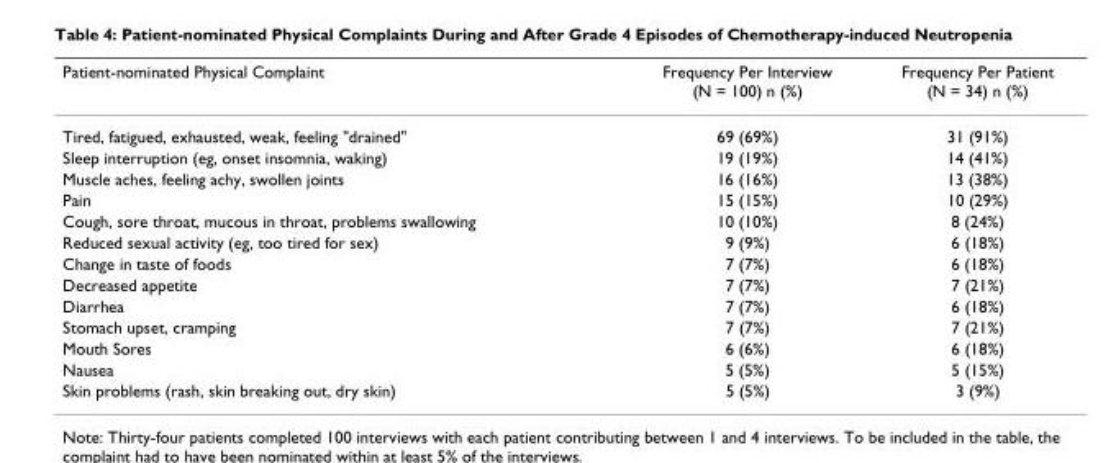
<table><thead><tr><td>Patient-nominated Physical Complaint</td><td>Frequency Per Interview (N = 100) n (%)</td><td>Frequency Per Patient (N = 34) n (%)</td></tr></thead><tbody><tr><td>Tired, fatigued, exhausted, weak, feeling &quot;drained&quot;</td><td>69 (69%)</td><td>31 (91%)</td></tr><tr><td>Sleep interruption (eg, onset insomnia, waking)</td><td>19 (19%)</td><td>14 (41%)</td></tr><tr><td>Muscle aches, feeling achy, swollen joints</td><td>16 (16%)</td><td>13 (38%)</td></tr><tr><td>Pain</td><td>15 (15%)</td><td>10 (29%)</td></tr><tr><td>Cough, sore throat, mucous in throat, problems swallowing</td><td>10 (10%)</td><td>8 (24%)</td></tr><tr><td>Reduced sexual activity (eg, too tired for sex)</td><td>9 (9%)</td><td>6 (18%)</td></tr><tr><td>Change in taste of foods</td><td>7 (7%)</td><td>6 (18%)</td></tr><tr><td>Decreased appetite</td><td>7 (7%)</td><td>7 (21%)</td></tr><tr><td>Diarrhea</td><td>7 (7%)</td><td>6 (18%)</td></tr><tr><td>Stomach upset, cramping</td><td>7 (7%)</td><td>7 (21%)</td></tr><tr><td>Mouth Sores</td><td>6 (6%)</td><td>6 (18%)</td></tr><tr><td>Nausea</td><td>5 (5%)</td><td>5 (15%)</td></tr><tr><td>Skin problems (rash, skin breaking out, dry skin)</td><td>5 (5%)</td><td>3 (9%)</td></tr></tbody></table>